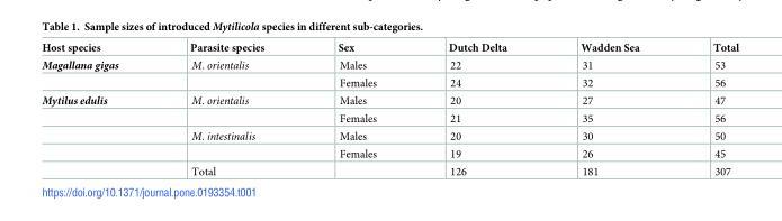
<table><thead><tr><td>Host species</td><td>Parasite species</td><td>Sex</td><td>Dutch Delta</td><td>Wadden Sea</td><td>Total</td></tr></thead><tbody><tr><td rowspan="2">Magallana gigas</td><td>M. orientalis</td><td>Males</td><td>22</td><td>31</td><td>53</td></tr><tr><td></td><td>Females</td><td>24</td><td>32</td><td>56</td></tr><tr><td rowspan="5">Mytilus edulis</td><td>M. orientalis</td><td>Males</td><td>20</td><td>27</td><td>47</td></tr><tr><td></td><td>Females</td><td>21</td><td>35</td><td>56</td></tr><tr><td>M. intestinalis</td><td>Males</td><td>20</td><td>30</td><td>50</td></tr><tr><td></td><td>Females</td><td>19</td><td>26</td><td>45</td></tr><tr><td>Total</td><td></td><td>126</td><td>181</td><td>307</td></tr></tbody></table>